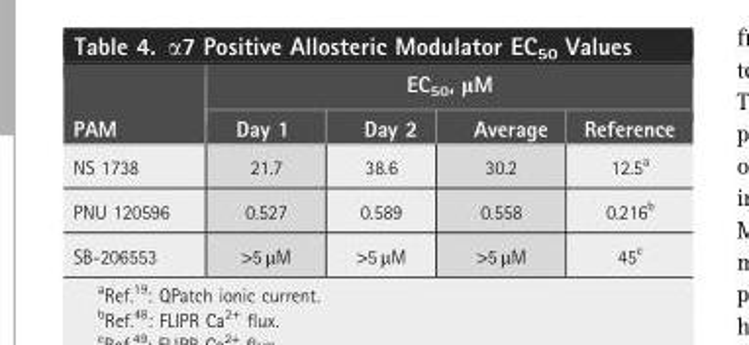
<table><thead><tr><td rowspan="2">PAM</td><td colspan="4">EC<sub>50</sub>, μM</td></tr><tr><td>Day 1</td><td>Day 2</td><td>Average</td><td>Reference</td></tr></thead><tbody><tr><td>NS 1738</td><td>21.7</td><td>38.6</td><td>30.2</td><td>12.5<sup>a</sup></td></tr><tr><td>PNU 120596</td><td>0.527</td><td>0.589</td><td>0.558</td><td>0.216<sup>b</sup></td></tr><tr><td>SB-206553</td><td>&gt;5 μM</td><td>&gt;5 μM</td><td>&gt;5 μM</td><td>45<sup>c</sup></td></tr></tbody></table>